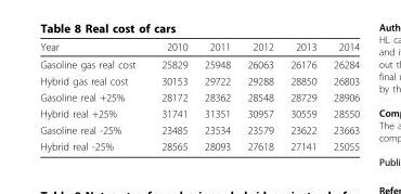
<table><thead><tr><td>Year</td><td>2010</td><td>2011</td><td>2012</td><td>2013</td><td>2014</td></tr></thead><tbody><tr><td>Gasoline gas real cost</td><td>25829</td><td>25948</td><td>26063</td><td>26176</td><td>26284</td></tr><tr><td>Hybrid gas real cost</td><td>30153</td><td>29722</td><td>29288</td><td>28850</td><td>26803</td></tr><tr><td>Gasoline real +25%</td><td>28172</td><td>28362</td><td>28548</td><td>28729</td><td>28906</td></tr><tr><td>Hybrid real +25%</td><td>31741</td><td>31351</td><td>30957</td><td>30559</td><td>28550</td></tr><tr><td>Gasoline real -25%</td><td>23485</td><td>23534</td><td>23579</td><td>23622</td><td>23663</td></tr><tr><td>Hybrid real -25%</td><td>28565</td><td>28093</td><td>27618</td><td>27141</td><td>25055</td></tr></tbody></table>